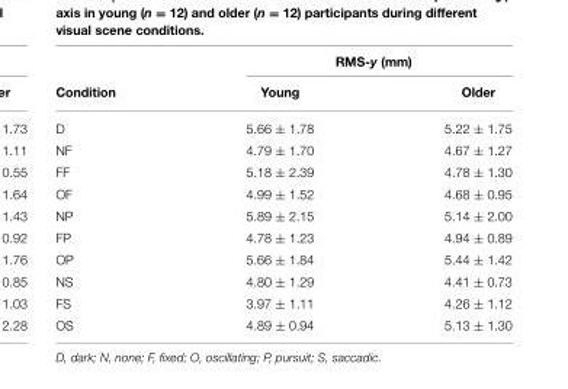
<table><thead><tr><td rowspan="2">Condition</td><td colspan="2">RMS-y (mm)</td></tr><tr><td>Young</td><td>Older</td></tr></thead><tbody><tr><td>D</td><td>5.66 ± 1.78</td><td>5.22 ± 1.75</td></tr><tr><td>NF</td><td>4.79 ± 1.70</td><td>4.67 ± 1.27</td></tr><tr><td>FF</td><td>5.18 ± 2.39</td><td>4.78 ± 1.30</td></tr><tr><td>OF</td><td>4.99 ± 1.52</td><td>4.68 ± 0.95</td></tr><tr><td>NP</td><td>5.89 ± 2.15</td><td>5.14 ± 2.00</td></tr><tr><td>FP</td><td>4.78 ± 1.23</td><td>4.94 ± 0.89</td></tr><tr><td>OP</td><td>5.66 ± 1.84</td><td>5.44 ± 1.42</td></tr><tr><td>NS</td><td>4.80 ± 1.29</td><td>4.41 ± 0.73</td></tr><tr><td>FS</td><td>3.97 ± 1.11</td><td>4.26 ± 1.12</td></tr><tr><td>OS</td><td>4.89 ± 0.94</td><td>5.13 ± 1.30</td></tr></tbody></table>